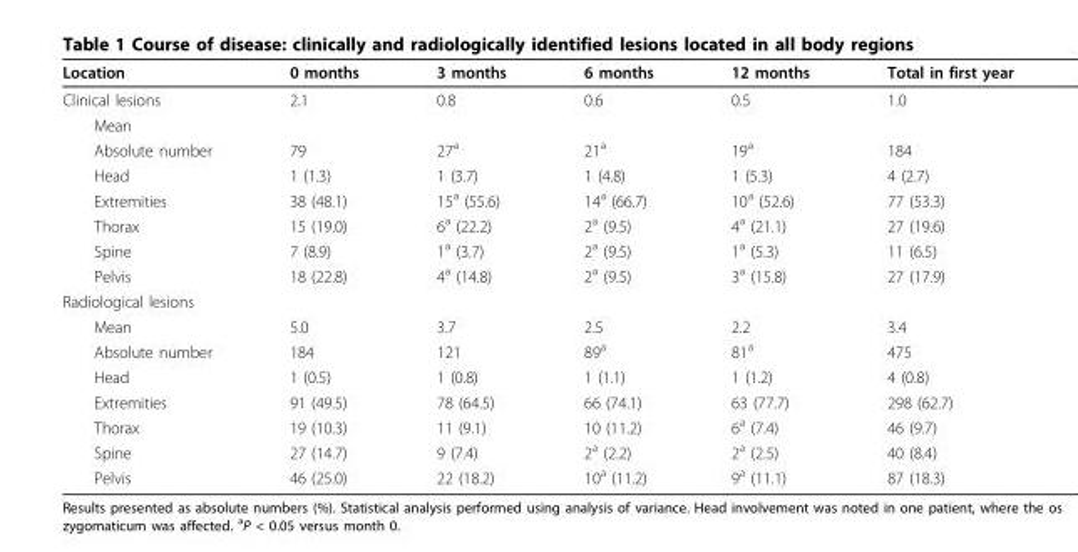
<table><thead><tr><td>Location</td><td>0 months</td><td>3 months</td><td>6 months</td><td>12 months</td><td>Total in first year</td></tr></thead><tbody><tr><td>Clinical lesions</td><td>2.1</td><td>0.8</td><td>0.6</td><td>0.5</td><td>1.0</td></tr><tr><td colspan="6">Mean</td></tr><tr><td>Absolute number</td><td>79</td><td>27<sup>a</sup></td><td>21<sup>a</sup></td><td>19<sup>a</sup></td><td>184</td></tr><tr><td>Head</td><td>1 (1.3)</td><td>1 (3.7)</td><td>1 (4.8)</td><td>1 (5.3)</td><td>4 (2.7)</td></tr><tr><td>Extremities</td><td>38 (48.1)</td><td>15<sup>a</sup> (55.6)</td><td>14<sup>a</sup> (66.7)</td><td>10<sup>a</sup> (52.6)</td><td>77 (53.3)</td></tr><tr><td>Thorax</td><td>15 (19.0)</td><td>6<sup>a</sup> (22.2)</td><td>2<sup>a</sup> (9.5)</td><td>4<sup>a</sup> (21.1)</td><td>27 (19.6)</td></tr><tr><td>Spine</td><td>7 (8.9)</td><td>1<sup>a</sup> (3.7)</td><td>2<sup>a</sup> (9.5)</td><td>1<sup>a</sup> (5.3)</td><td>11 (6.5)</td></tr><tr><td>Pelvis</td><td>18 (22.8)</td><td>4<sup>a</sup> (14.8)</td><td>2<sup>a</sup> (9.5)</td><td>3<sup>a</sup> (15.8)</td><td>27 (17.9)</td></tr><tr><td colspan="6">Radiological lesions</td></tr><tr><td>Mean</td><td>5.0</td><td>3.7</td><td>2.5</td><td>2.2</td><td>3.4</td></tr><tr><td>Absolute number</td><td>184</td><td>121</td><td>89<sup>a</sup></td><td>81<sup>a</sup></td><td>475</td></tr><tr><td>Head</td><td>1 (0.5)</td><td>1 (0.8)</td><td>1 (1.1)</td><td>1 (1.2)</td><td>4 (0.8)</td></tr><tr><td>Extremities</td><td>91 (49.5)</td><td>78 (64.5)</td><td>66 (74.1)</td><td>63 (77.7)</td><td>298 (62.7)</td></tr><tr><td>Thorax</td><td>19 (10.3)</td><td>11 (9.1)</td><td>10 (11.2)</td><td>6<sup>a</sup> (7.4)</td><td>46 (9.7)</td></tr><tr><td>Spine</td><td>27 (14.7)</td><td>9 (7.4)</td><td>2<sup>a</sup> (2.2)</td><td>2<sup>a</sup> (2.5)</td><td>40 (8.4)</td></tr><tr><td>Pelvis</td><td>46 (25.0)</td><td>22 (18.2)</td><td>10<sup>a</sup> (11.2)</td><td>9<sup>a</sup> (11.1)</td><td>87 (18.3)</td></tr></tbody></table>